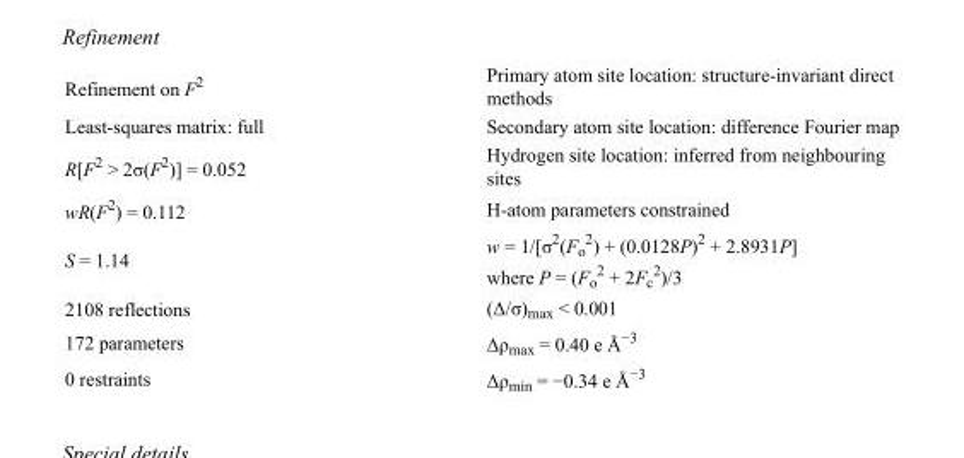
<table><tbody><tr><td>Refinement on F<sup>2</sup></td><td>Primary atom site location: structure-invariant direct methods</td></tr><tr><td>Least-squares matrix: full</td><td>Secondary atom site location: difference Fourier map</td></tr><tr><td>R[F<sup>2</sup> &gt; 2σ(F<sup>2</sup>)] = 0.052</td><td>Hydrogen site location: inferred from neighbouring sites</td></tr><tr><td>wR(F<sup>2</sup>) = 0.112</td><td>H-atom parameters constrained</td></tr><tr><td>S = 1.14</td><td>w = 1/[σ<sup>2</sup>(F<sub>o</sub> <sup>2</sup>) + (0.0128P)<sup>2</sup> + 2.8931P] where P = (F<sub>o</sub> <sup>2</sup> + 2F<sub>c</sub> <sup>2</sup>)/3</td></tr><tr><td>2108 reflections</td><td>(Δ/σ)<sub>max</sub> &lt; 0.001</td></tr><tr><td>172 parameters</td><td>Δρ<sub>max</sub> = 0.40 e Å<sup>−3</sup></td></tr><tr><td>0 restraints</td><td>Δρ<sub>min</sub> = −0.34 e Å<sup>−3</sup></td></tr></tbody></table>